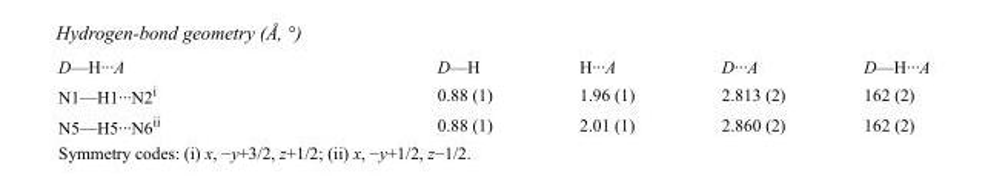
<table><tbody><tr><td>D—H···A</td><td>D—H</td><td>H···A</td><td>D···A</td><td>D—H···A</td></tr><tr><td>N1—H1···N2<sup>i</sup></td><td>0.88 (1)</td><td>1.96 (1)</td><td>2.813 (2)</td><td>162 (2)</td></tr><tr><td>N5—H5···N6<sup>ii</sup></td><td>0.88 (1)</td><td>2.01 (1)</td><td>2.860 (2)</td><td>162 (2)</td></tr></tbody></table>